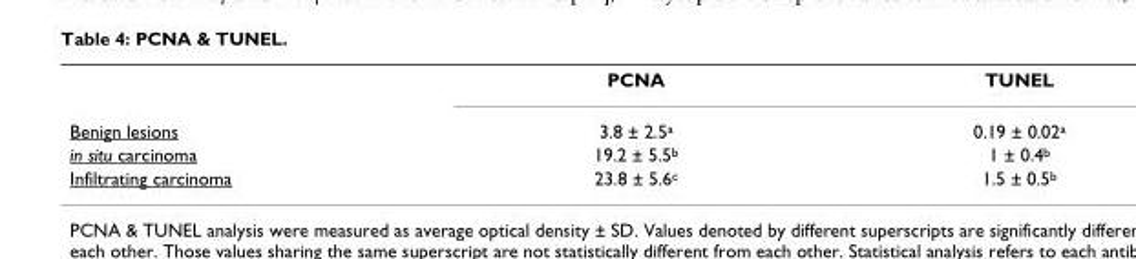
<table><thead><tr><td></td><td>PCNA</td><td>TUNEL</td></tr></thead><tbody><tr><td>Benign lesions</td><td>3.8 ± 2.5<sup>a</sup></td><td>0.19 ± 0.02<sup>a</sup></td></tr><tr><td>in situ carcinoma</td><td>19.2 ± 5.5<sup>b</sup></td><td>1 ± 0.4<sup>b</sup></td></tr><tr><td>Infiltrating carcinoma</td><td>23.8 ± 5.6<sup>c</sup></td><td>1.5 ± 0.5<sup>b</sup></td></tr></tbody></table>